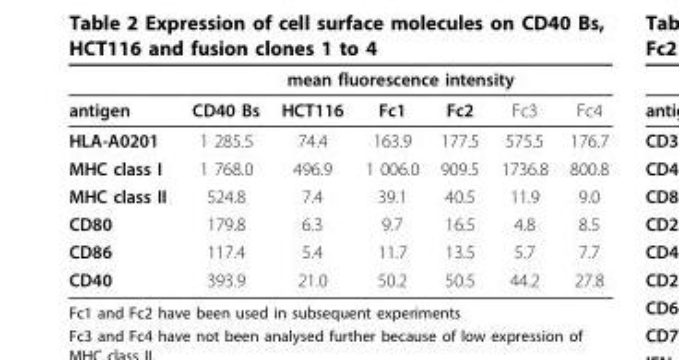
<table><thead><tr><td rowspan="2">antigen</td><td colspan="6">mean fluorescence intensity</td></tr><tr><td>CD40 Bs</td><td>HCT116</td><td>Fc1</td><td>Fc2</td><td>Fc3</td><td>Fc4</td></tr></thead><tbody><tr><td>HLA-A0201</td><td>1 285.5</td><td>74.4</td><td>163.9</td><td>177.5</td><td>575.5</td><td>176.7</td></tr><tr><td>MHC class I</td><td>1 768.0</td><td>496.9</td><td>1 006.0</td><td>909.5</td><td>1736.8</td><td>800.8</td></tr><tr><td>MHC class II</td><td>524.8</td><td>7.4</td><td>39.1</td><td>40.5</td><td>11.9</td><td>9.0</td></tr><tr><td>CD80</td><td>179.8</td><td>6.3</td><td>9.7</td><td>16.5</td><td>4.8</td><td>8.5</td></tr><tr><td>CD86</td><td>117.4</td><td>5.4</td><td>11.7</td><td>13.5</td><td>5.7</td><td>7.7</td></tr><tr><td>CD40</td><td>393.9</td><td>21.0</td><td>50.2</td><td>50.5</td><td>44.2</td><td>27.8</td></tr></tbody></table>